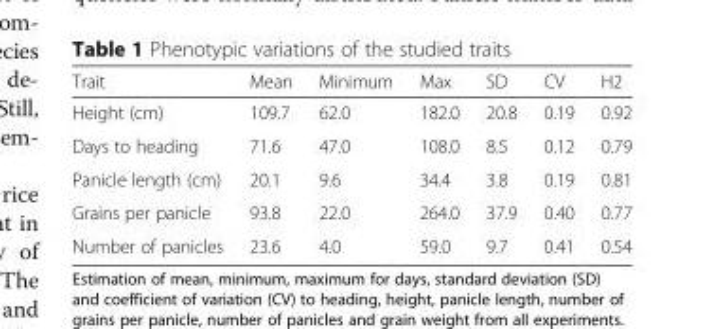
<table><thead><tr><td>Trait</td><td>Mean</td><td>Minimum</td><td>Max</td><td>SD</td><td>CV</td><td>H2</td></tr></thead><tbody><tr><td>Height (cm)</td><td>109.7</td><td>62.0</td><td>182.0</td><td>20.8</td><td>0.19</td><td>0.92</td></tr><tr><td>Days to heading</td><td>71.6</td><td>47.0</td><td>108.0</td><td>8.5</td><td>0.12</td><td>0.79</td></tr><tr><td>Panicle length (cm)</td><td>20.1</td><td>9.6</td><td>34.4</td><td>3.8</td><td>0.19</td><td>0.81</td></tr><tr><td>Grains per panicle</td><td>93.8</td><td>22.0</td><td>264.0</td><td>37.9</td><td>0.40</td><td>0.77</td></tr><tr><td>Number of panicles</td><td>23.6</td><td>4.0</td><td>59.0</td><td>9.7</td><td>0.41</td><td>0.54</td></tr></tbody></table>